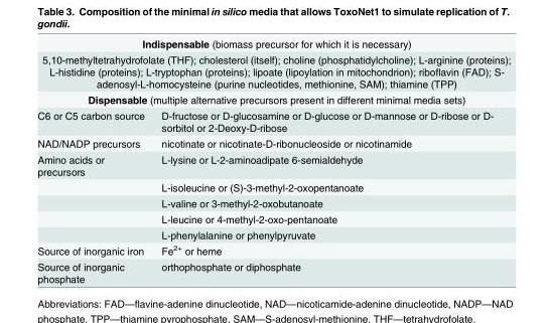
<table><tbody><tr><td colspan="2">Indispensable (biomass precursor for which it is necessary)</td></tr><tr><td colspan="2">5,10-methyltetrahydrofolate (THF); cholesterol (itself); choline (phosphatidylcholine); L-arginine (proteins); L-histidine (proteins); L-tryptophan (proteins); lipoate (lipoylation in mitochondrion); riboflavin (FAD); S- adenosyl-L-homocysteine (purine nucleotides, methionine, SAM); thiamine (TPP)</td></tr><tr><td colspan="2">Dispensable (multiple alternative precursors present in different minimal media sets)</td></tr><tr><td>C6 or C5 carbon source</td><td>D-fructose or D-glucosamine or D-glucose or D-mannose or D-ribose or D- sorbitol or 2-Deoxy-D-ribose</td></tr><tr><td>NAD/NADP precursors</td><td>nicotinate or nicotinate-D-ribonucleoside or nicotinamide</td></tr><tr><td rowspan="5">Amino acids or precursors</td><td>L-lysine or L-2-aminoadipate 6-semialdehyde</td></tr><tr><td>L-isoleucine or (S)-3-methyl-2-oxopentanoate</td></tr><tr><td>L-valine or 3-methyl-2-oxobutanoate</td></tr><tr><td>L-leucine or 4-methyl-2-oxo-pentanoate</td></tr><tr><td>L-phenylalanine or phenylpyruvate</td></tr><tr><td>Source of inorganic iron</td><td>Fe<sup>2+</sup> or heme</td></tr><tr><td>Source of inorganic phosphate</td><td>orthophosphate or diphosphate</td></tr></tbody></table>